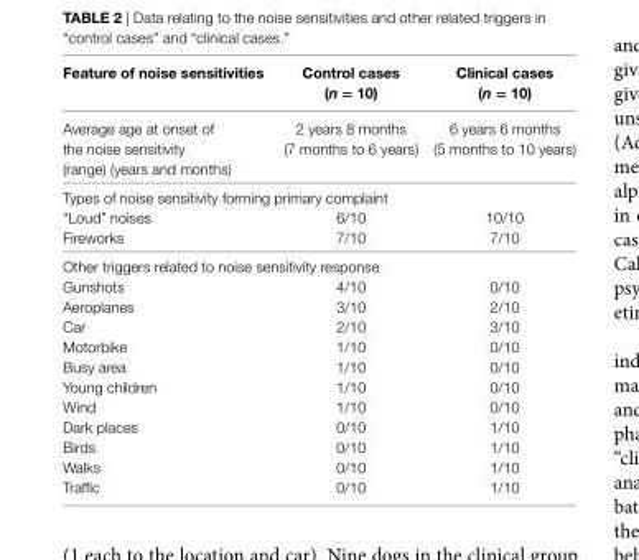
<table><thead><tr><td>Feature of noise sensitivities</td><td>control cases (n = 10)</td><td>clinical cases (n = 10)</td></tr></thead><tbody><tr><td>Average age at onset of the noise sensitivity (range) (years and months)</td><td>2 years 8 months (7 months to 6 years)</td><td>6 years 6 months (5 months to 10 years)</td></tr><tr><td colspan="3">Types of noise sensitivity forming primary complaint</td></tr><tr><td>“Loud” noises</td><td>6/10</td><td>10/10</td></tr><tr><td>Fireworks</td><td>7/10</td><td>7/10</td></tr><tr><td colspan="3">Other triggers related to noise sensitivity response</td></tr><tr><td>Gunshots</td><td>4/10</td><td>0/10</td></tr><tr><td>Aeroplanes</td><td>3/10</td><td>2/10</td></tr><tr><td>Car</td><td>2/10</td><td>3/10</td></tr><tr><td>Motorbike</td><td>1/10</td><td>0/10</td></tr><tr><td>Busy area</td><td>1/10</td><td>0/10</td></tr><tr><td>Young children</td><td>1/10</td><td>0/10</td></tr><tr><td>Wind</td><td>1/10</td><td>0/10</td></tr><tr><td>Dark places</td><td>0/10</td><td>1/10</td></tr><tr><td>Birds</td><td>0/10</td><td>1/10</td></tr><tr><td>Walks</td><td>0/10</td><td>1/10</td></tr><tr><td>Traffic</td><td>0/10</td><td>1/10</td></tr></tbody></table>